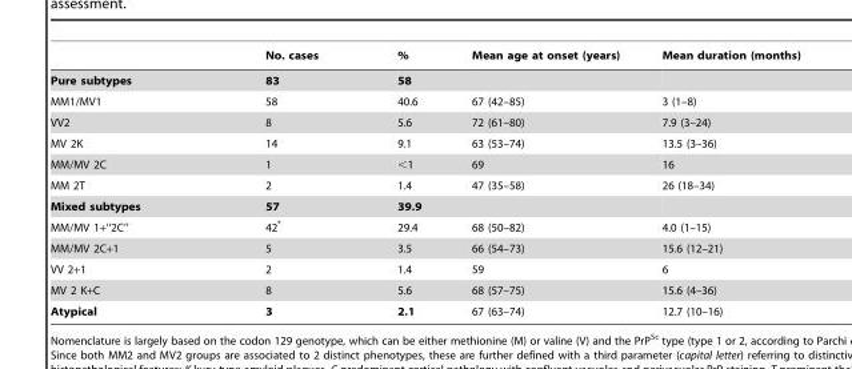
<table><thead><tr><td></td><td>No. cases</td><td>%</td><td>Mean age at onset (years)</td><td>Mean duration (months)</td></tr></thead><tbody><tr><td>Pure subtypes</td><td>83</td><td>58</td><td></td><td></td></tr><tr><td>MM1/MV1</td><td>58</td><td>40.6</td><td>67 (42–85)</td><td>3 (1–8)</td></tr><tr><td>VV2</td><td>8</td><td>5.6</td><td>72 (61–80)</td><td>7.9 (3–24)</td></tr><tr><td>MV 2K</td><td>14</td><td>9.1</td><td>63 (53–74)</td><td>13.5 (3–36)</td></tr><tr><td>MM/MV 2C</td><td>1</td><td>&lt;1</td><td>69</td><td>16</td></tr><tr><td>MM 2T</td><td>2</td><td>1.4</td><td>47 (35–58)</td><td>26 (18–34)</td></tr><tr><td>Mixed subtypes</td><td>57</td><td>39.9</td><td></td><td></td></tr><tr><td>MM/MV 1+‘‘2C’’</td><td>42*</td><td>29.4</td><td>68 (50–82)</td><td>4.0 (1–15)</td></tr><tr><td>MM/MV 2C+1</td><td>5</td><td>3.5</td><td>66 (54–73)</td><td>15.6 (12–21)</td></tr><tr><td>VV 2+1</td><td>2</td><td>1.4</td><td>59</td><td>6</td></tr><tr><td>MV 2 K+C</td><td>8</td><td>5.6</td><td>68 (57–75)</td><td>15.6 (4–36)</td></tr><tr><td>Atypical</td><td>3</td><td>2.1</td><td>67 (63–74)</td><td>12.7 (10–16)</td></tr></tbody></table>